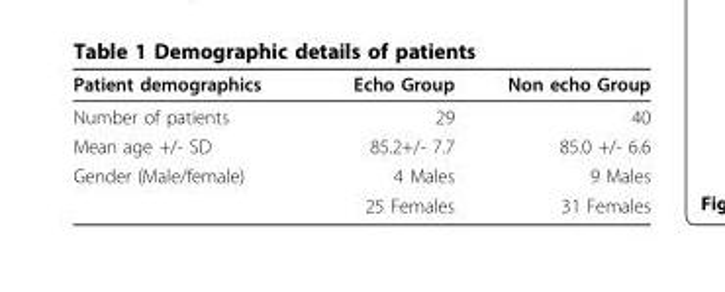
<table><thead><tr><td>Patient demographics</td><td>Echo Group</td><td>Non echo Group</td></tr></thead><tbody><tr><td>Number of patients</td><td>29</td><td>40</td></tr><tr><td>Mean age +/- SD</td><td>85.2+/- 7.7</td><td>85.0 +/- 6.6</td></tr><tr><td rowspan="2">Gender (Male/female)</td><td>4 Males</td><td>9 Males</td></tr><tr><td>25 Females</td><td>31 Females</td></tr></tbody></table>